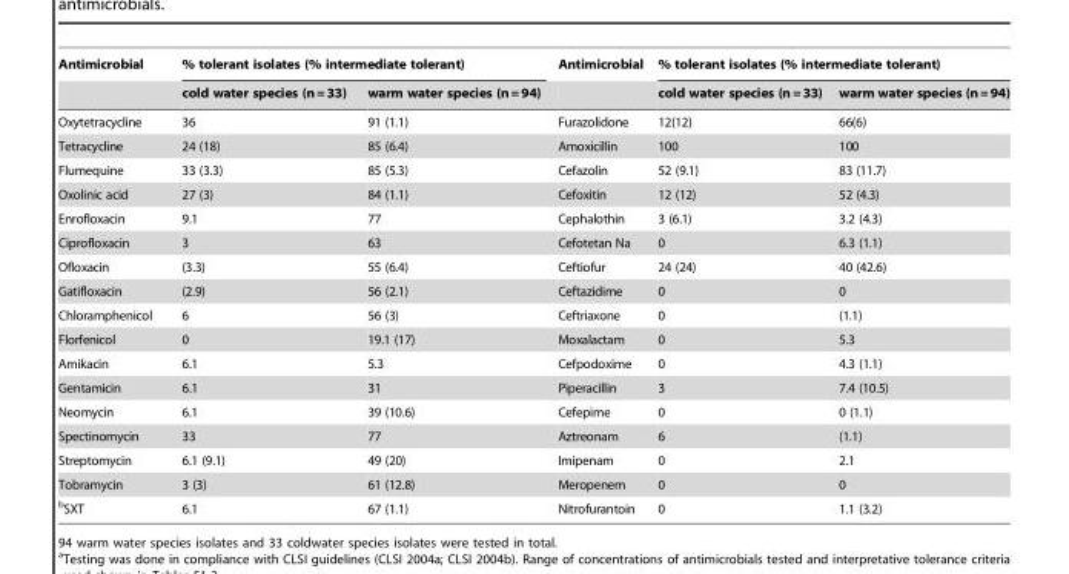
<table><thead><tr><td rowspan="2">Antimicrobial</td><td colspan="2">% tolerant isolates (% intermediate tolerant)</td><td rowspan="2">Antimicrobial</td><td colspan="2">% tolerant isolates (% intermediate tolerant)</td></tr><tr><td>cold water species (n= 33)</td><td>warm water species (n=94)</td><td>cold water species (n= 33)</td><td>warm water species (n=94)</td></tr></thead><tbody><tr><td>Oxytetracycline</td><td>36</td><td>91 (1.1)</td><td>Furazolidone</td><td>12(12)</td><td>66(6)</td></tr><tr><td>Tetracycline</td><td>24 (18)</td><td>85 (6.4)</td><td>Amoxicillin</td><td>100</td><td>100</td></tr><tr><td>Flumequine</td><td>33 (3.3)</td><td>85 (5.3)</td><td>Cefazolin</td><td>52 (9.1)</td><td>83 (11.7)</td></tr><tr><td>Oxolinic acid</td><td>27 (3)</td><td>84 (1.1)</td><td>Cefoxitin</td><td>12 (12)</td><td>52 (4.3)</td></tr><tr><td>Enrofloxacin</td><td>9.1</td><td>77</td><td>Cephalothin</td><td>3 (6.1)</td><td>3.2 (4.3)</td></tr><tr><td>Ciprofloxacin</td><td>3</td><td>63</td><td>Cefotetan Na</td><td>0</td><td>6.3 (1.1)</td></tr><tr><td>Ofloxacin</td><td>(3.3)</td><td>55 (6.4)</td><td>Ceftiofur</td><td>24 (24)</td><td>40 (42.6)</td></tr><tr><td>Gatifloxacin</td><td>(2.9)</td><td>56 (2.1)</td><td>Ceftazidime</td><td>0</td><td>0</td></tr><tr><td>Chloramphenicol</td><td>6</td><td>56 (3)</td><td>Ceftriaxone</td><td>0</td><td>(1.1)</td></tr><tr><td>Florfenicol</td><td>0</td><td>19.1 (17)</td><td>Moxalactam</td><td>0</td><td>5.3</td></tr><tr><td>Amikacin</td><td>6.1</td><td>5.3</td><td>Cefpodoxime</td><td>0</td><td>4.3 (1.1)</td></tr><tr><td>Gentamicin</td><td>6.1</td><td>31</td><td>Piperacillin</td><td>3</td><td>7.4 (10.5)</td></tr><tr><td>Neomycin</td><td>6.1</td><td>39 (10.6)</td><td>Cefepime</td><td>0</td><td>0 (1.1)</td></tr><tr><td>Spectinomycin</td><td>33</td><td>77</td><td>Aztreonam</td><td>6</td><td>(1.1)</td></tr><tr><td>Streptomycin</td><td>6.1 (9.1)</td><td>49 (20)</td><td>Imipenam</td><td>0</td><td>2.1</td></tr><tr><td>Tobramycin</td><td>3 (3)</td><td>61 (12.8)</td><td>Meropenem</td><td>0</td><td>0</td></tr><tr><td>bSXT</td><td>6.1</td><td>67 (1.1)</td><td>Nitrofurantoin</td><td>0</td><td>1.1 (3.2)</td></tr></tbody></table>